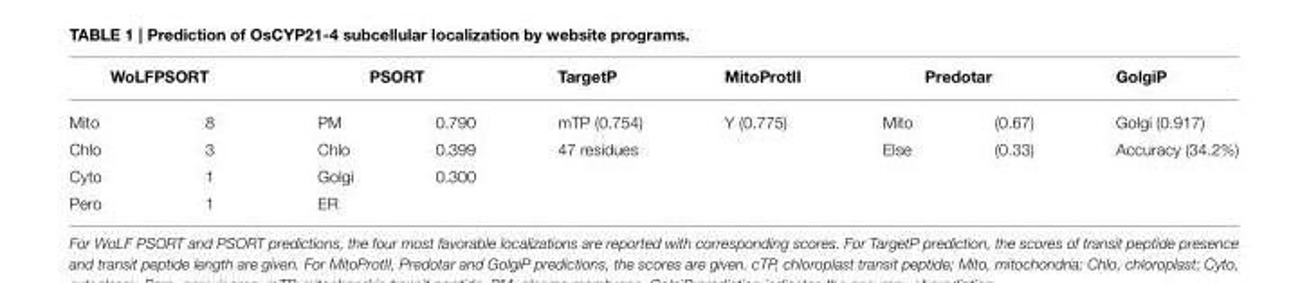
<table><thead><tr><td colspan="2">WoLFPSORT</td><td colspan="2">PSORT</td><td rowspan="2">TargetP mTP (0.754)</td><td rowspan="2">MitoProtII Y (0.775)</td><td colspan="2">Predotar</td><td rowspan="2">GolgiP Golgi (0.917)</td></tr><tr><td>Mito</td><td>8</td><td>PM</td><td>0.790</td><td>Mito</td><td>(0.67)</td></tr></thead><tbody><tr><td>Chlo</td><td>3</td><td>Chlo</td><td>0.399</td><td>47 residues</td><td></td><td>Else</td><td>(0.33)</td><td>Accuracy (34.2%)</td></tr><tr><td>Cyto</td><td>1</td><td>Golgi</td><td>0.300</td><td></td><td></td><td></td><td></td><td></td></tr><tr><td>Pero</td><td>1</td><td>ER</td><td></td><td></td><td></td><td></td><td></td><td></td></tr></tbody></table>